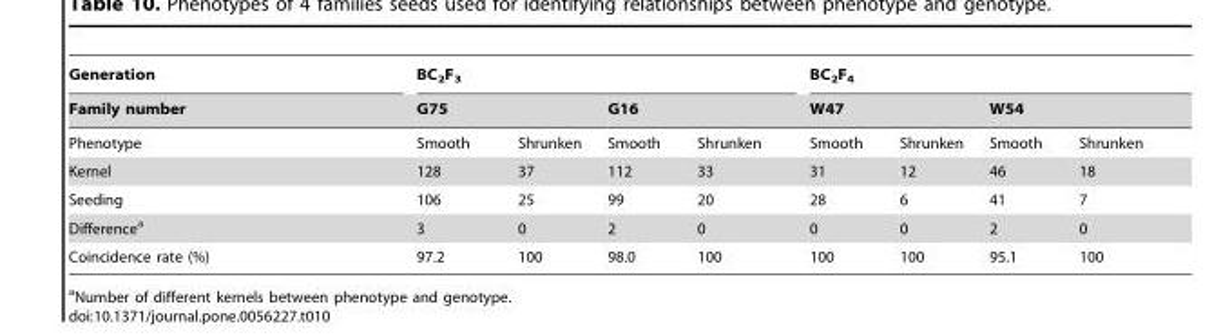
<table><thead><tr><td rowspan="3">Generation Family number Phenotype</td><td colspan="4">BC<sub>2</sub>F<sub>3</sub></td><td colspan="4">BC<sub>2</sub>F<sub>4</sub></td></tr><tr><td colspan="2">G75</td><td colspan="2">G16</td><td colspan="2">W47</td><td colspan="2">W54</td></tr><tr><td>Smooth</td><td>Shrunken</td><td>Smooth</td><td>Shrunken</td><td>Smooth</td><td>Shrunken</td><td>Smooth</td><td>Shrunken</td></tr></thead><tbody><tr><td>Kernel</td><td>128</td><td>37</td><td>112</td><td>33</td><td>31</td><td>12</td><td>46</td><td>18</td></tr><tr><td>Seeding</td><td>106</td><td>25</td><td>99</td><td>20</td><td>28</td><td>6</td><td>41</td><td>7</td></tr><tr><td>Difference<sup>a</sup></td><td>3</td><td>0</td><td>2</td><td>0</td><td>0</td><td>0</td><td>2</td><td>0</td></tr><tr><td>Coincidence rate (%)</td><td>97.2</td><td>100</td><td>98.0</td><td>100</td><td>100</td><td>100</td><td>95.1</td><td>100</td></tr></tbody></table>